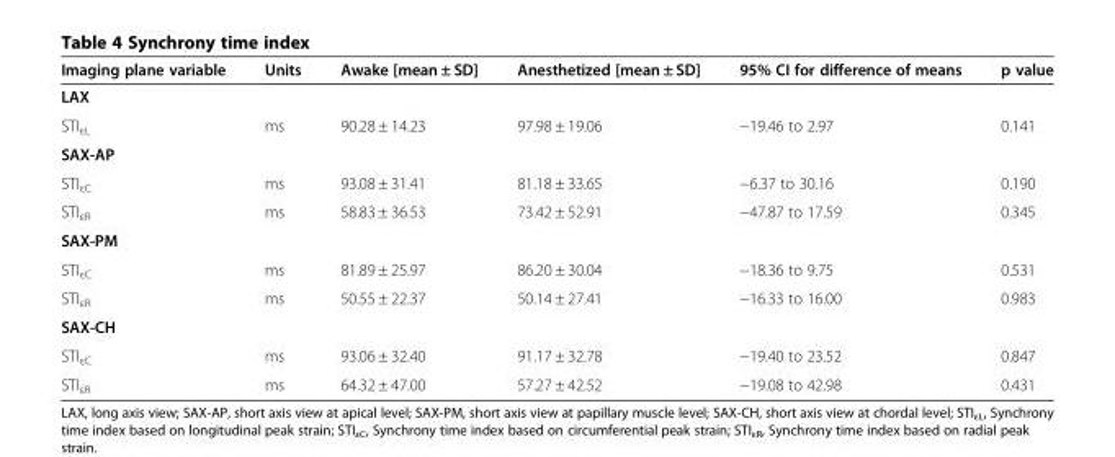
<table><thead><tr><td>Imaging plane variable</td><td>Units</td><td>Awake [mean ± SD]</td><td>Anesthetized [mean ± SD]</td><td>95% CI for difference of means</td><td>p value</td></tr></thead><tbody><tr><td colspan="6">LAX</td></tr><tr><td>STI<sub>εL</sub></td><td>ms</td><td>90.28 ± 14.23</td><td>97.98 ± 19.06</td><td>−19.46 to 2.97</td><td>0.141</td></tr><tr><td colspan="6">SAX-AP</td></tr><tr><td>STI<sub>εC</sub></td><td>ms</td><td>93.08 ± 31.41</td><td>81.18 ± 33.65</td><td>−6.37 to 30.16</td><td>0.190</td></tr><tr><td>STI<sub>εR</sub></td><td>ms</td><td>58.83 ± 36.53</td><td>73.42 ± 52.91</td><td>−47.87 to 17.59</td><td>0.345</td></tr><tr><td colspan="6">SAX-PM</td></tr><tr><td>STI<sub>εC</sub></td><td>ms</td><td>81.89 ± 25.97</td><td>86.20 ± 30.04</td><td>−18.36 to 9.75</td><td>0.531</td></tr><tr><td>STI<sub>εR</sub></td><td>ms</td><td>50.55 ± 22.37</td><td>50.14 ± 27.41</td><td>−16.33 to 16.00</td><td>0.983</td></tr><tr><td colspan="6">SAX-CH</td></tr><tr><td>STI<sub>εC</sub></td><td>ms</td><td>93.06 ± 32.40</td><td>91.17 ± 32.78</td><td>−19.40 to 23.52</td><td>0.847</td></tr><tr><td>STI<sub>εR</sub></td><td>ms</td><td>64.32 ± 47.00</td><td>57.27 ± 42.52</td><td>−19.08 to 42.98</td><td>0.431</td></tr></tbody></table>